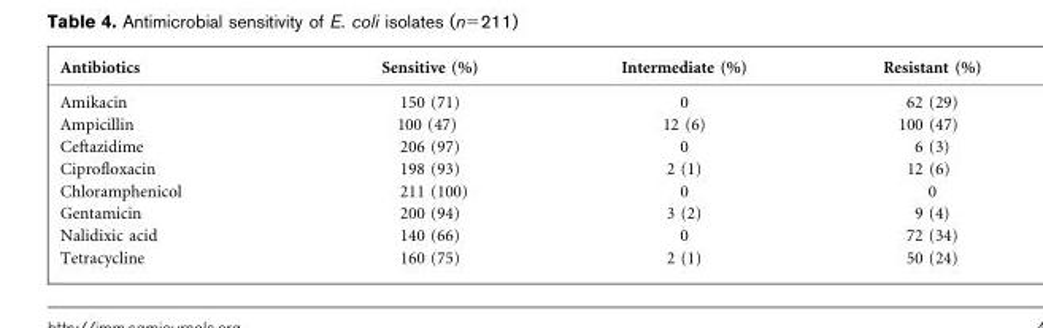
<table><thead><tr><td>Antibiotics</td><td>Sensitive (%)</td><td>Intermediate (%)</td><td>Resistant (%)</td></tr></thead><tbody><tr><td>Amikacin</td><td>150 (71)</td><td>0</td><td>62 (29)</td></tr><tr><td>Ampicillin</td><td>100 (47)</td><td>12 (6)</td><td>100 (47)</td></tr><tr><td>Ceftazidime</td><td>206 (97)</td><td>0</td><td>6 (3)</td></tr><tr><td>Ciprofloxacin</td><td>198 (93)</td><td>2 (1)</td><td>12 (6)</td></tr><tr><td>Chloramphenicol</td><td>211 (100)</td><td>0</td><td>0</td></tr><tr><td>Gentamicin</td><td>200 (94)</td><td>3 (2)</td><td>9 (4)</td></tr><tr><td>Nalidixic acid</td><td>140 (66)</td><td>0</td><td>72 (34)</td></tr><tr><td>Tetracycline</td><td>160 (75)</td><td>2 (1)</td><td>50 (24)</td></tr></tbody></table>